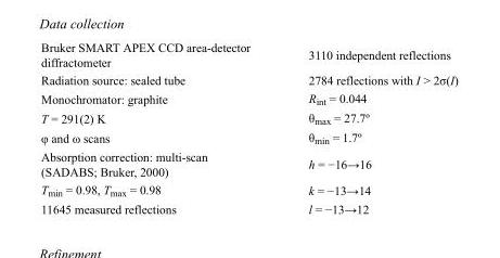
<table><tbody><tr><td>Bruker SMART APEX CCD area-detector diffractometer</td><td>3110 independent reflections</td></tr><tr><td>Radiation source: sealed tube</td><td>2784 reflections with I &gt; 2σ(I)</td></tr><tr><td>Monochromator: graphite</td><td>R<sub>int</sub> = 0.044</td></tr><tr><td>T = 291(2) K</td><td>θ<sub>max</sub> = 27.7º</td></tr><tr><td>φ and ω scans</td><td>θ<sub>min</sub> = 1.7º</td></tr><tr><td>Absorption correction: multi-scan (SADABS; Bruker, 2000)</td><td>h = −16→16</td></tr><tr><td>T<sub>min</sub> = 0.98, T<sub>max</sub> = 0.98</td><td>k = −13→14</td></tr><tr><td>11645 measured reflections</td><td>l = −13→12</td></tr></tbody></table>